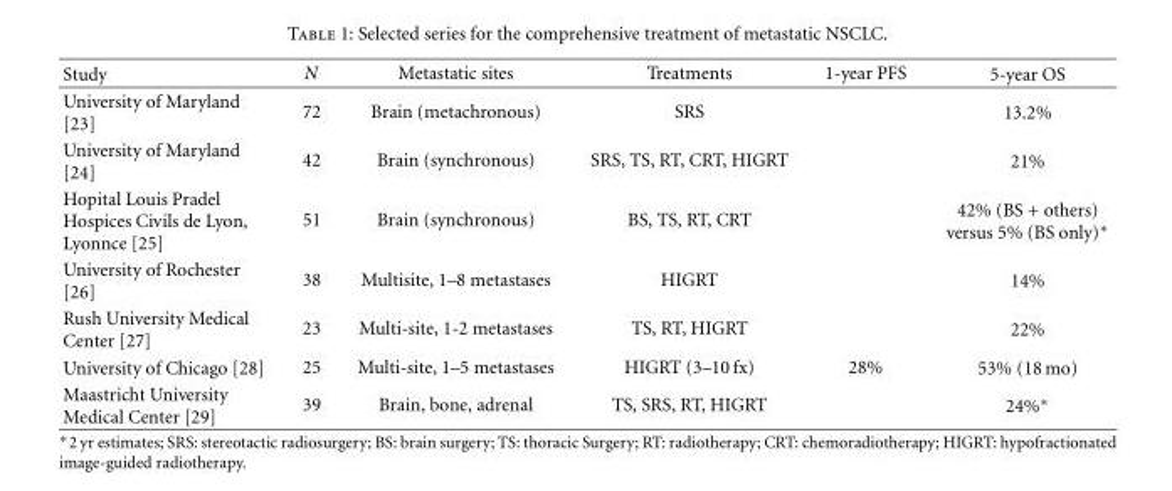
<table><thead><tr><td>Study</td><td>N</td><td>Metastatic sites</td><td>Treatments</td><td>1-year PFS</td><td>5-year OS</td></tr></thead><tbody><tr><td>University of Maryland [23]</td><td>72</td><td>Brain (metachronous)</td><td>SRS</td><td></td><td>13.2%</td></tr><tr><td>University of Maryland [24]</td><td>42</td><td>Brain (synchronous)</td><td>SRS, TS, RT, CRT, HIGRT</td><td></td><td>21%</td></tr><tr><td>Hopital Louis Pradel Hospices Civils de Lyon, Lyonnce [25]</td><td>51</td><td>Brain (synchronous)</td><td>BS, TS, RT, CRT</td><td></td><td>42% (BS + others) versus 5% (BS only)∗</td></tr><tr><td>University of Rochester [26]</td><td>38</td><td>Multisite, 1–8 metastases</td><td>HIGRT</td><td></td><td>14%</td></tr><tr><td>Rush University Medical Center [27]</td><td>23</td><td>Multi-site, 1-2 metastases</td><td>TS, RT, HIGRT</td><td></td><td>22%</td></tr><tr><td>University of Chicago [28]</td><td>25</td><td>Multi-site, 1–5 metastases</td><td>HIGRT (3–10 fx)</td><td>28%</td><td>53% (18 mo)</td></tr><tr><td>Maastricht University Medical Center [29]</td><td>39</td><td>Brain, bone, adrenal</td><td>TS, SRS, RT, HIGRT</td><td></td><td>24%∗</td></tr></tbody></table>